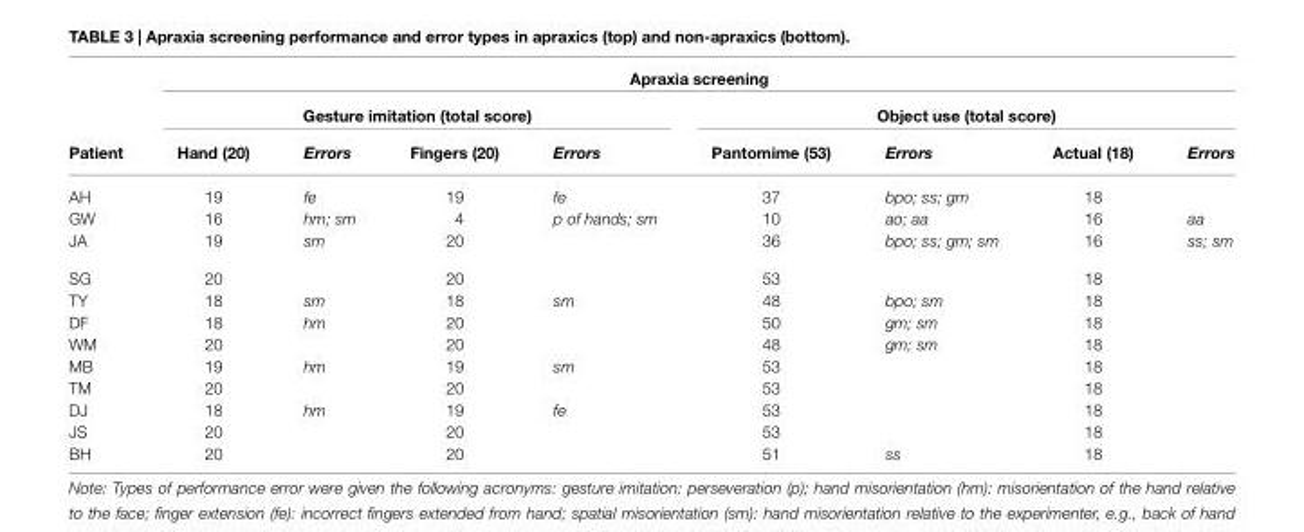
<table><thead><tr><td rowspan="3">Patient</td><td colspan="8">Apraxia screening</td></tr><tr><td colspan="4">Gesture imitation (total score)</td><td colspan="4">Object use (total score)</td></tr><tr><td>Hand (20)</td><td>Errors</td><td>Fingers (20)</td><td>Errors</td><td>Pantomime (53)</td><td>Errors</td><td>Actual (18)</td><td>Errors</td></tr></thead><tbody><tr><td>AH</td><td>19</td><td>fe</td><td>19</td><td>fe</td><td>37</td><td>bpo; ss; gm</td><td>18</td><td></td></tr><tr><td>GW</td><td>16</td><td>hm; sm</td><td>4</td><td>p of hands; sm</td><td>10</td><td>ao; aa</td><td>16</td><td>aa</td></tr><tr><td>JA</td><td>19</td><td>sm</td><td>20</td><td></td><td>36</td><td>bpo; ss; gm; sm</td><td>16</td><td>ss; sm</td></tr><tr><td>SG</td><td>20</td><td></td><td>20</td><td></td><td>53</td><td></td><td>18</td><td></td></tr><tr><td>TY</td><td>18</td><td>sm</td><td>18</td><td>sm</td><td>48</td><td>bpo; sm</td><td>18</td><td></td></tr><tr><td>DF</td><td>18</td><td>hm</td><td>20</td><td></td><td>50</td><td>gm; sm</td><td>18</td><td></td></tr><tr><td>WM</td><td>20</td><td></td><td>20</td><td></td><td>48</td><td>gm; sm</td><td>18</td><td></td></tr><tr><td>MB</td><td>19</td><td>hm</td><td>19</td><td>sm</td><td>53</td><td></td><td>18</td><td></td></tr><tr><td>TM</td><td>20</td><td></td><td>20</td><td></td><td>53</td><td></td><td>18</td><td></td></tr><tr><td>DJ</td><td>18</td><td>hm</td><td>19</td><td>fe</td><td>53</td><td></td><td>18</td><td></td></tr><tr><td>JS</td><td>20</td><td></td><td>20</td><td></td><td>53</td><td></td><td>18</td><td></td></tr><tr><td>BH</td><td>20</td><td></td><td>20</td><td></td><td>51</td><td>ss</td><td>18</td><td></td></tr></tbody></table>